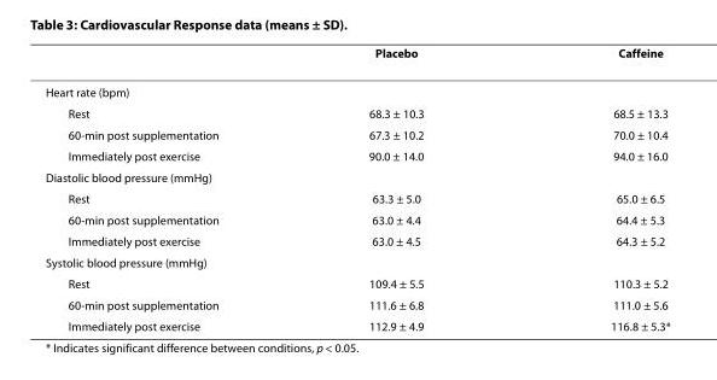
<table><thead><tr><td></td><td>Placebo</td><td>Caffeine</td></tr></thead><tbody><tr><td colspan="3">Heart rate (bpm)</td></tr><tr><td>Rest</td><td>68.3 ± 10.3</td><td>68.5 ± 13.3</td></tr><tr><td>60-min post supplementation</td><td>67.3 ± 10.2</td><td>70.0 ± 10.4</td></tr><tr><td>Immediately post exercise</td><td>90.0 ± 14.0</td><td>94.0 ± 16.0</td></tr><tr><td colspan="3">Diastolic blood pressure (mmHg)</td></tr><tr><td>Rest</td><td>63.3 ± 5.0</td><td>65.0 ± 6.5</td></tr><tr><td>60-min post supplementation</td><td>63.0 ± 4.4</td><td>64.4 ± 5.3</td></tr><tr><td>Immediately post exercise</td><td>63.0 ± 4.5</td><td>64.3 ± 5.2</td></tr><tr><td colspan="3">Systolic blood pressure (mmHg)</td></tr><tr><td>Rest</td><td>109.4 ± 5.5</td><td>110.3 ± 5.2</td></tr><tr><td>60-min post supplementation</td><td>111.6 ± 6.8</td><td>111.0 ± 5.6</td></tr><tr><td>Immediately post exercise</td><td>112.9 ± 4.9</td><td>116.8 ± 5.3*</td></tr></tbody></table>